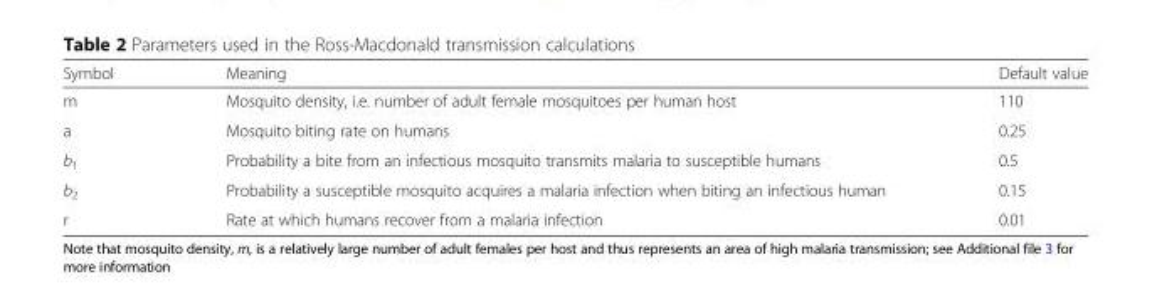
<table><thead><tr><td>Symbol</td><td>Meaning</td><td>Default value</td></tr></thead><tbody><tr><td>m</td><td>Mosquito density, i.e. number of adult female mosquitoes per human host</td><td>110</td></tr><tr><td>a</td><td>Mosquito biting rate on humans</td><td>0.25</td></tr><tr><td>b<sub>1</sub></td><td>Probability a bite from an infectious mosquito transmits malaria to susceptible humans</td><td>0.5</td></tr><tr><td>b<sub>2</sub></td><td>Probability a susceptible mosquito acquires a malaria infection when biting an infectious human</td><td>0.15</td></tr><tr><td>r</td><td>Rate at which humans recover from a malaria infection</td><td>0.01</td></tr></tbody></table>